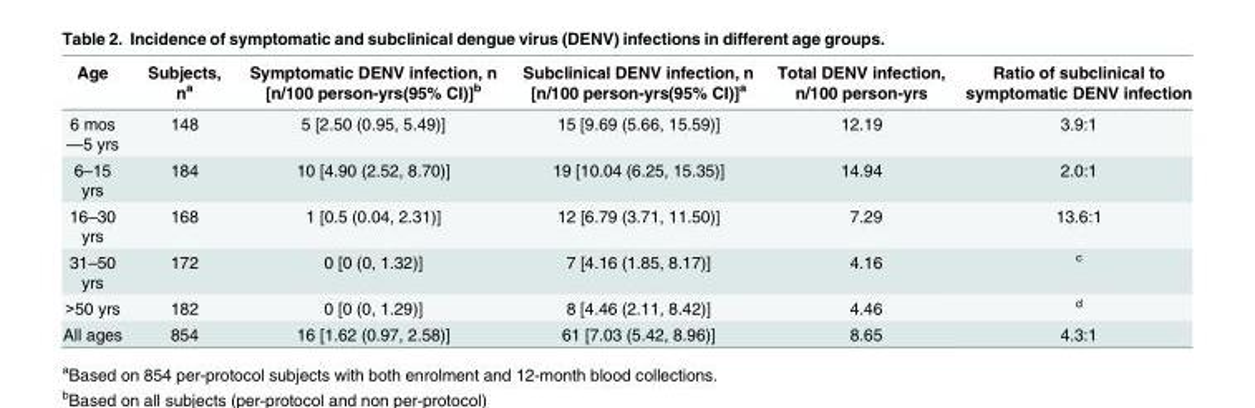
<table><thead><tr><td>Age</td><td>Subjects, n<sup>a</sup></td><td>Symptomatic DENV infection, n [n/100 person-yrs(95% CI)]<sup>b</sup></td><td>Subclinical DENV infection, n [n/100 person-yrs(95% CI)]<sup>a</sup></td><td>Total DENV infection, n/100 person-yrs</td><td>Ratio of subclinical to symptomatic DENV infection</td></tr></thead><tbody><tr><td>6 mos —5 yrs</td><td>148</td><td>5 [2.50 (0.95, 5.49)]</td><td>15 [9.69 (5.66, 15.59)]</td><td>12.19</td><td>3.9:1</td></tr><tr><td>6–15 yrs</td><td>184</td><td>10 [4.90 (2.52, 8.70)]</td><td>19 [10.04 (6.25, 15.35)]</td><td>14.94</td><td>2.0:1</td></tr><tr><td>16–30 yrs</td><td>168</td><td>1 [0.5 (0.04, 2.31)]</td><td>12 [6.79 (3.71, 11.50)]</td><td>7.29</td><td>13.6:1</td></tr><tr><td>31–50 yrs</td><td>172</td><td>0 [0 (0, 1.32)]</td><td>7 [4.16 (1.85, 8.17)]</td><td>4.16</td><td><sup>c</sup></td></tr><tr><td>&gt;50 yrs</td><td>182</td><td>0 [0 (0, 1.29)]</td><td>8 [4.46 (2.11, 8.42)]</td><td>4.46</td><td><sup>d</sup></td></tr><tr><td>All ages</td><td>854</td><td>16 [1.62 (0.97, 2.58)]</td><td>61 [7.03 (5.42, 8.96)]</td><td>8.65</td><td>4.3:1</td></tr></tbody></table>